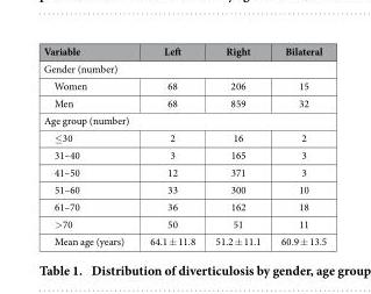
<table><thead><tr><td>Variable</td><td>Left</td><td>Right</td><td>Bilateral</td></tr></thead><tbody><tr><td colspan="4">Gender (number)</td></tr><tr><td>Women</td><td>68</td><td>206</td><td>15</td></tr><tr><td>Men</td><td>68</td><td>859</td><td>32</td></tr><tr><td colspan="4">Age group (number)</td></tr><tr><td>≤ 30</td><td>2</td><td>16</td><td>2</td></tr><tr><td>31–40</td><td>3</td><td>165</td><td>3</td></tr><tr><td>41–50</td><td>12</td><td>371</td><td>3</td></tr><tr><td>51–60</td><td>33</td><td>300</td><td>10</td></tr><tr><td>61–70</td><td>36</td><td>162</td><td>18</td></tr><tr><td>&gt;70</td><td>50</td><td>51</td><td>11</td></tr><tr><td>Mean age (years)</td><td>64.1 ± 11.8</td><td>51.2 ± 11.1</td><td>60.9 ± 13.5</td></tr></tbody></table>